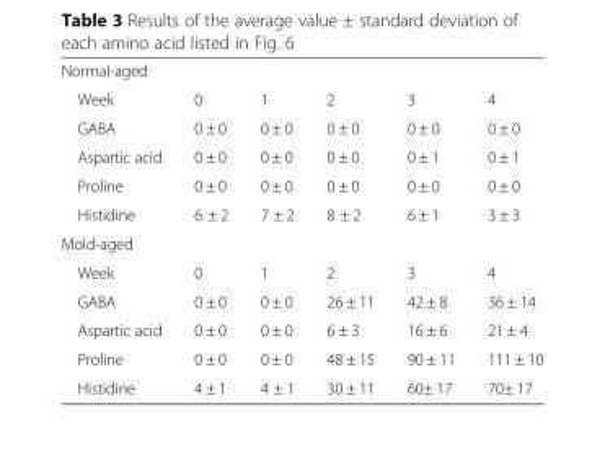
<table><tbody><tr><td colspan="6">Normal-aged</td></tr><tr><td>Week</td><td>0</td><td>1</td><td>2</td><td>3</td><td>4</td></tr><tr><td>GABA</td><td>0 ± 0</td><td>0 ± 0</td><td>0 ± 0</td><td>0 ± 0</td><td>0 ± 0</td></tr><tr><td>Aspartic acid</td><td>0 ± 0</td><td>0 ± 0</td><td>0 ± 0</td><td>0 ± 1</td><td>0 ± 1</td></tr><tr><td>Proline</td><td>0 ± 0</td><td>0 ± 0</td><td>0 ± 0</td><td>0 ± 0</td><td>0 ± 0</td></tr><tr><td>Histidine</td><td>6 ± 2</td><td>7 ± 2</td><td>8 ± 2</td><td>6 ± 1</td><td>3 ± 3</td></tr><tr><td colspan="6">Mold-aged</td></tr><tr><td>Week</td><td>0</td><td>1</td><td>2</td><td>3</td><td>4</td></tr><tr><td>GABA</td><td>0 ± 0</td><td>0 ± 0</td><td>26 ± 11</td><td>42 ± 8</td><td>36 ± 14</td></tr><tr><td>Aspartic acid</td><td>0 ± 0</td><td>0 ± 0</td><td>6 ± 3</td><td>16 ± 6</td><td>21 ± 4</td></tr><tr><td>Proline</td><td>0 ± 0</td><td>0 ± 0</td><td>48 ± 15</td><td>90 ± 11</td><td>111 ± 10</td></tr><tr><td>Histidine</td><td>4 ± 1</td><td>4 ± 1</td><td>30 ± 11</td><td>60± 17</td><td>70± 17</td></tr></tbody></table>